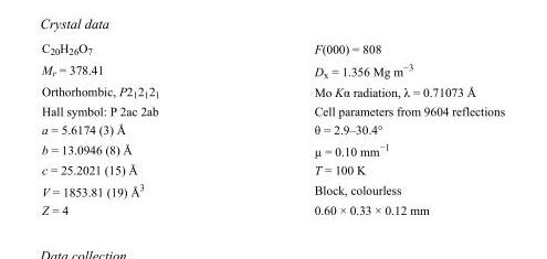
<table><tbody><tr><td>C<sub>20</sub>H<sub>26</sub>O<sub>7</sub></td><td>F(000) = 808</td></tr><tr><td>M<sub>r</sub> = 378.41</td><td>D<sub>x</sub> = 1.356 Mg m<sup>−3</sup></td></tr><tr><td>Orthorhombic, P2<sub>1</sub>2<sub>1</sub>2<sub>1</sub></td><td>Mo Kα radiation, λ = 0.71073 Å</td></tr><tr><td>Hall symbol: P 2ac 2ab</td><td>Cell parameters from 9604 reflections</td></tr><tr><td>a = 5.6174 (3) Å</td><td>θ = 2.9–30.4°</td></tr><tr><td>b = 13.0946 (8) Å</td><td>µ = 0.10 mm<sup>−1</sup></td></tr><tr><td>c = 25.2021 (15) Å</td><td>T = 100 K</td></tr><tr><td>V = 1853.81 (19) Å<sup>3</sup></td><td>Block, colourless</td></tr><tr><td>Z = 4</td><td>0.60 × 0.33 × 0.12 mm</td></tr></tbody></table>